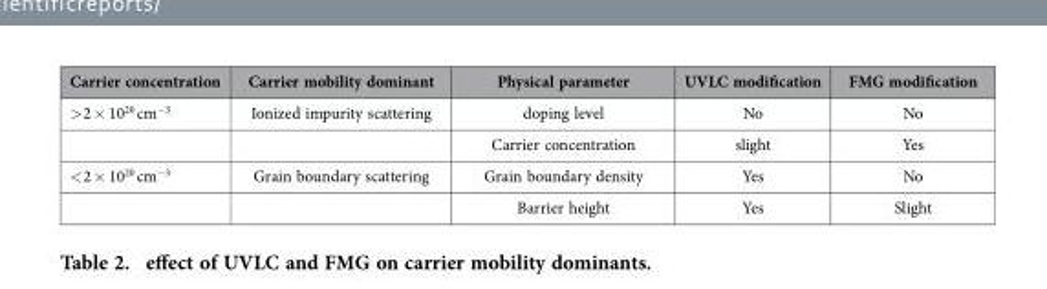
<table><thead><tr><td>Carrier concentration</td><td>Carrier mobility dominant</td><td>Physical parameter</td><td>UVLC modification</td><td>FMG modification</td></tr></thead><tbody><tr><td rowspan="2">&gt; 2 × 10<sup>20</sup> cm<sup>−3</sup></td><td>Ionized impurity scattering</td><td>doping level</td><td>No</td><td>No</td></tr><tr><td></td><td>Carrier concentration</td><td>slight</td><td>Yes</td></tr><tr><td rowspan="2">&lt; 2 × 10<sup>20</sup> cm<sup>−3</sup></td><td>Grain boundary scattering</td><td>Grain boundary density</td><td>Yes</td><td>No</td></tr><tr><td></td><td>Barrier height</td><td>Yes</td><td>Slight</td></tr></tbody></table>